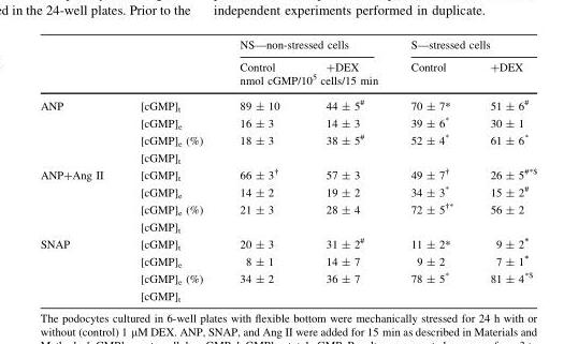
<table><thead><tr><td rowspan="3"></td><td rowspan="3"></td><td colspan="2">NS—non-stressed cells</td><td colspan="2">S—stressed cells</td></tr><tr><td>Control</td><td>+DEX</td><td>Control</td><td>+DEX</td></tr><tr><td colspan="4">nmol cGMP/10<sup>5</sup> cells/15 min</td></tr></thead><tbody><tr><td rowspan="3">ANP</td><td>[cGMP]<sub>t</sub></td><td>89 ± 10</td><td>44 ± 5<sup>#</sup></td><td>70 ± 7*</td><td>51 ± 6<sup>#</sup></td></tr><tr><td>[cGMP]<sub>e</sub></td><td>16 ± 3</td><td>14 ± 3</td><td>39 ± 6*</td><td>30 ± 1</td></tr><tr><td>[cGMP]<sub>e</sub> (%) [cGMP]<sub>t</sub></td><td>18 ± 3</td><td>38 ± 5<sup>#</sup></td><td>52 ± 4*</td><td>61 ± 6*</td></tr><tr><td rowspan="3">ANP+Ang II</td><td>[cGMP]<sub>t</sub></td><td>66 ± 3<sup>†</sup></td><td>57 ± 3</td><td>49 ± 7<sup>†</sup></td><td>26 ± 5<sup>#*$</sup></td></tr><tr><td>[cGMP]<sub>e</sub></td><td>14 ± 2</td><td>19 ± 2</td><td>34 ± 3*</td><td>15 ± 2<sup>#</sup></td></tr><tr><td>[cGMP]<sub>e</sub> (%) [cGMP]<sub>t</sub></td><td>21 ± 3</td><td>28 ± 4</td><td>72 ± 5<sup>†*</sup></td><td>56 ± 2</td></tr><tr><td rowspan="3">SNAP</td><td>[cGMP]<sub>t</sub></td><td>20 ± 3</td><td>31 ± 2<sup>#</sup></td><td>11 ± 2*</td><td>9 ± 2*</td></tr><tr><td>[cGMP]<sub>e</sub></td><td>8 ± 1</td><td>14 ± 7</td><td>9 ± 2</td><td>7 ± 1*</td></tr><tr><td>[cGMP]<sub>e</sub> (%) [cGMP]<sub>t</sub></td><td>34 ± 2</td><td>36 ± 7</td><td>78 ± 5*</td><td>81 ± 4<sup>*$</sup></td></tr></tbody></table>